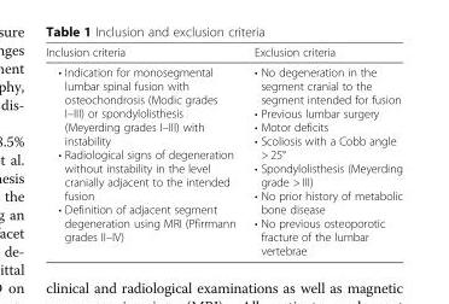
<table><thead><tr><td>Inclusion criteria</td><td>Exclusion criteria</td></tr></thead><tbody><tr><td>• Indication for monosegmental lumbar spinal fusion with osteochondrosis (Modic grades I–III) or spondylolisthesis (Meyerding grades I–III) with instability • Radiological signs of degeneration without instability in the level cranially adjacent to the intended fusion • Definition of adjacent segment degeneration using MRI (Pfirrmann grades II–IV)</td><td>• No degeneration in the segment cranial to the segment intended for fusion • Previous lumbar surgery • Motor deficits • Scoliosis with a Cobb angle &gt; 25° • Spondylolisthesis (Meyerding grade &gt; III) • No prior history of metabolic bone disease • No previous osteoporotic fracture of the lumbar vertebrae</td></tr></tbody></table>